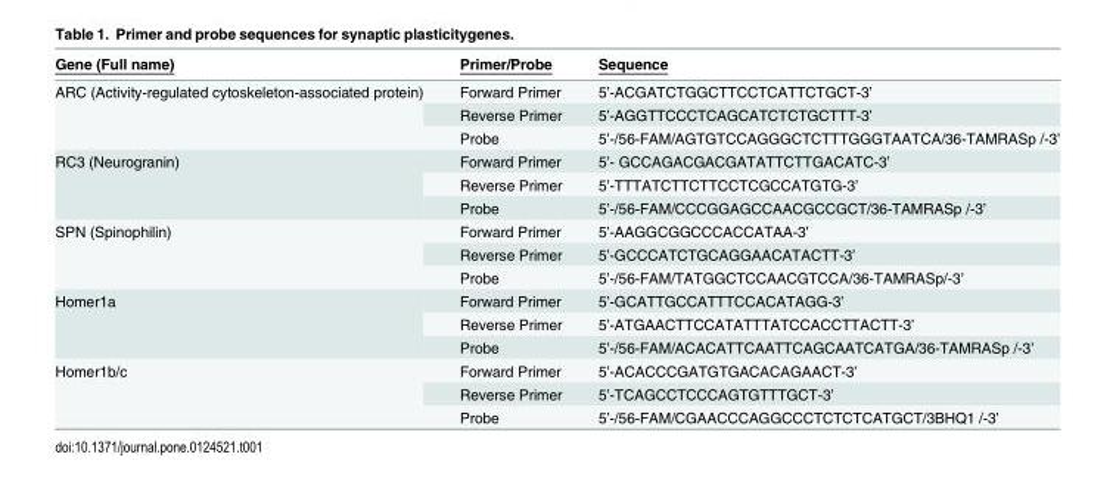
<table><thead><tr><td>Gene (Full name)</td><td>Primer/Probe</td><td>Sequence</td></tr></thead><tbody><tr><td rowspan="3">ARC (Activity-regulated cytoskeleton-associated protein)</td><td>Forward Primer</td><td>5’-ACGATCTGGCTTCCTCATTCTGCT-3’</td></tr><tr><td>Reverse Primer</td><td>5’-AGGTTCCCTCAGCATCTCTGCTTT-3’</td></tr><tr><td>Probe</td><td>5’-/56-FAM/AGTGTCCAGGGCTCTTTGGGTAATCA/36-TAMRASp /-3’</td></tr><tr><td rowspan="3">RC3 (Neurogranin)</td><td>Forward Primer</td><td>5’- GCCAGACGACGATATTCTTGACATC-3’</td></tr><tr><td>Reverse Primer</td><td>5’-TTTATCTTCTTCCTCGCCATGTG-3’</td></tr><tr><td>Probe</td><td>5’-/56-FAM/CCCGGAGCCAACGCCGCT/36-TAMRASp /-3’</td></tr><tr><td rowspan="3">SPN (Spinophilin)</td><td>Forward Primer</td><td>5’-AAGGCGGCCCACCATAA-3’</td></tr><tr><td>Reverse Primer</td><td>5’-GCCCATCTGCAGGAACATACTT-3’</td></tr><tr><td>Probe</td><td>5’-/56-FAM/TATGGCTCCAACGTCCA/36-TAMRASp/-3’</td></tr><tr><td rowspan="3">Homer1a</td><td>Forward Primer</td><td>5’-GCATTGCCATTTCCACATAGG-3’</td></tr><tr><td>Reverse Primer</td><td>5’-ATGAACTTCCATATTTATCCACCTTACTT-3’</td></tr><tr><td>Probe</td><td>5’-/56-FAM/ACACATTCAATTCAGCAATCATGA/36-TAMRASp /-3’</td></tr><tr><td rowspan="3">Homer1b/c</td><td>Forward Primer</td><td>5’-ACACCCGATGTGACACAGAACT-3’</td></tr><tr><td>Reverse Primer</td><td>5’-TCAGCCTCCCAGTGTTTGCT-3’</td></tr><tr><td>Probe</td><td>5’-/56-FAM/CGAACCCAGGCCCTCTCTCATGCT/3BHQ1 /-3’</td></tr></tbody></table>